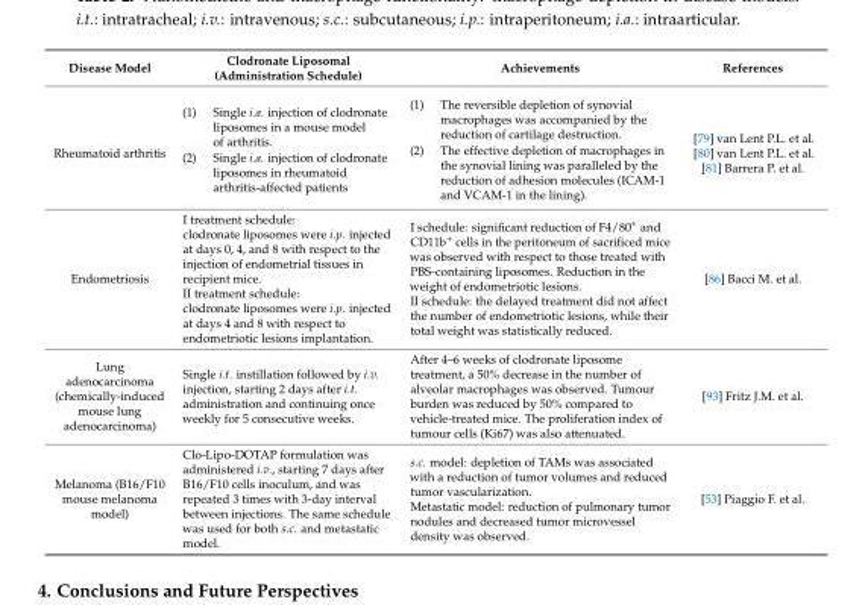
<table><thead><tr><td>Disease Model</td><td>Clodronate Liposomal (Administration Schedule)</td><td>Achievements</td><td>References</td></tr></thead><tbody><tr><td>Rheumatoid arthritis</td><td>(1) Single i.a. injection of clodronate liposomes in a mouse model of arthritis. (2) Single i.a. injection of clodronate liposomes in rheumatoid arthritis-affected patients</td><td>(1) The reversible depletion of synovial macrophages was accompanied by the reduction of cartilage destruction. (2) The effective depletion of macrophages in the synovial lining was paralleled by the reduction of adhesion molecules (ICAM-1 and VCAM-1 in the lining).</td><td>[79] van Lent P.L. et al. [80] van Lent P.L. et al. [81] Barrera P. et al.</td></tr><tr><td>Endometriosis</td><td>I treatment schedule: clodronate liposomes were i.p. injected at days 0, 4, and 8 with respect to the injection of endometrial tissues in recipient mice. II treatment schedule: clodronate liposomes were i.p. injected at days 4 and 8 with respect to endometriotic lesions implantation.</td><td>I schedule: significant reduction of F4/80<sup>+</sup> and CD11b<sup>+</sup> cells in the peritoneum of sacrificed mice was observed with respect to those treated with PBS-containing liposomes. Reduction in the weight of endometriotic lesions. II schedule: the delayed treatment did not affect the number of endometriotic lesions, while their total weight was statistically reduced.</td><td>[86] Bacci M. et al.</td></tr><tr><td>Lung adenocarcinoma (chemically-induced mouse lung adenocarcinoma)</td><td>Single i.t. instillation followed by i.v. injection, starting 2 days after i.t. administration and continuing once weekly for 5 consecutive weeks.</td><td>After 4–6 weeks of clodronate liposome treatment, a 50% decrease in the number of alveolar macrophages was observed. Tumour burden was reduced by 50% compared to vehicle-treated mice. The proliferation index of tumour cells (Ki67) was also attenuated.</td><td>[93] Fritz J.M. et al.</td></tr><tr><td>Melanoma (B16/F10 mouse melanoma model)</td><td>Clo-Lipo-DOTAP formulation was administered i.v., starting 7 days after B16/F10 cells inoculum, and was repeated 3 times with 3-day interval between injections. The same schedule was used for both s.c. and metastatic model.</td><td>s.c. model: depletion of TAMs was associated with a reduction of tumor volumes and reduced tumor vascularization. Metastatic model: reduction of pulmonary tumor nodules and decreased tumor microvessel density was observed.</td><td>[53] Piaggio F. et al.</td></tr></tbody></table>